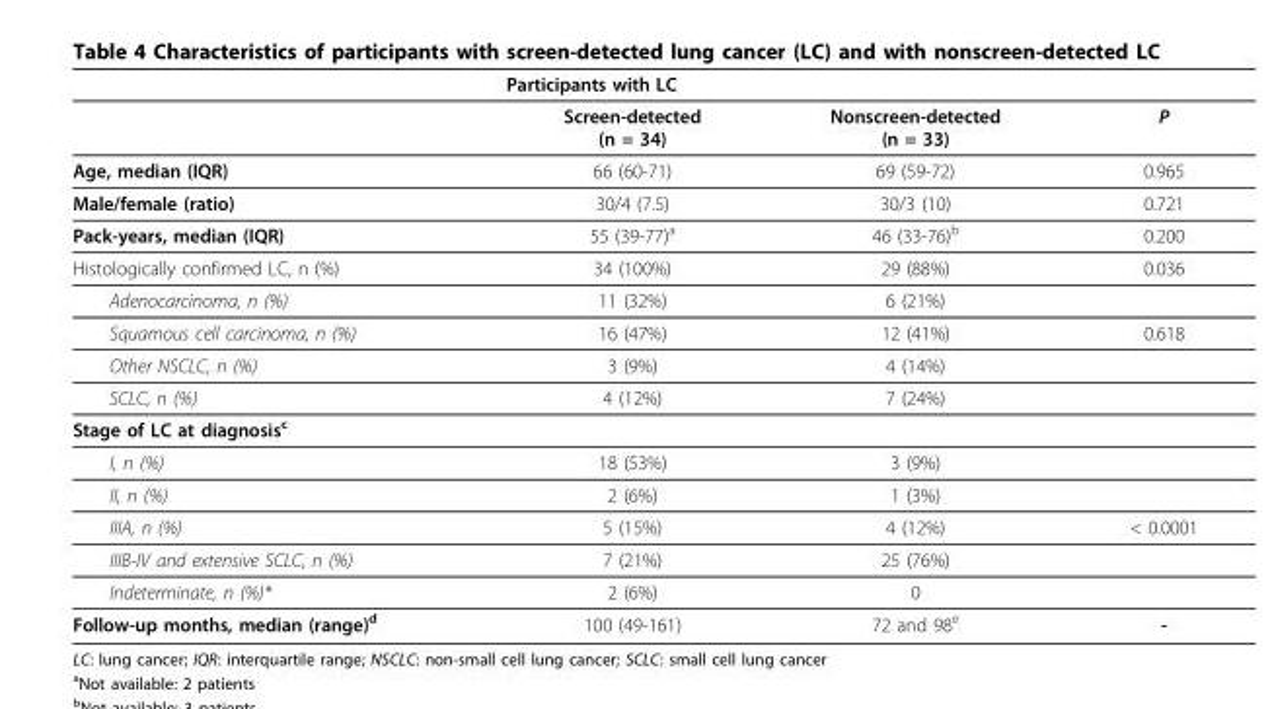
<table><thead><tr><td rowspan="2"></td><td colspan="2">Participants with LC</td><td rowspan="2">P</td></tr><tr><td>Screen-detected (n = 34)</td><td>Nonscreen-detected (n = 33)</td></tr></thead><tbody><tr><td>Age, median (IQR)</td><td>66 (60-71)</td><td>69 (59-72)</td><td>0.965</td></tr><tr><td>Male/female (ratio)</td><td>30/4 (7.5)</td><td>30/3 (10)</td><td>0.721</td></tr><tr><td>Pack-years, median (IQR)</td><td>55 (39-77)<sup>a</sup></td><td>46 (33-76)<sup>b</sup></td><td>0.200</td></tr><tr><td>Histologically confirmed LC, n (%)</td><td>34 (100%)</td><td>29 (88%)</td><td>0.036</td></tr><tr><td>Adenocarcinoma, n (%)</td><td>11 (32%)</td><td>6 (21%)</td><td></td></tr><tr><td>Squamous cell carcinoma, n (%)</td><td>16 (47%)</td><td>12 (41%)</td><td>0.618</td></tr><tr><td>Other NSCLC, n (%)</td><td>3 (9%)</td><td>4 (14%)</td><td></td></tr><tr><td>SCLC, n (%)</td><td>4 (12%)</td><td>7 (24%)</td><td></td></tr><tr><td colspan="4">Stage of LC at diagnosis<sup>c</sup></td></tr><tr><td>I, n (%)</td><td>18 (53%)</td><td>3 (9%)</td><td></td></tr><tr><td>II, n (%)</td><td>2 (6%)</td><td>1 (3%)</td><td></td></tr><tr><td>IIIA, n (%)</td><td>5 (15%)</td><td>4 (12%)</td><td>&lt; 0.0001</td></tr><tr><td>IIIB-IV and extensive SCLC, n (%)</td><td>7 (21%)</td><td>25 (76%)</td><td></td></tr><tr><td>Indeterminate, n (%)*</td><td>2 (6%)</td><td>0</td><td></td></tr><tr><td>Follow-up months, median (range)<sup>d</sup></td><td>100 (49-161)</td><td>72 and 98<sup>e</sup></td><td>-</td></tr></tbody></table>